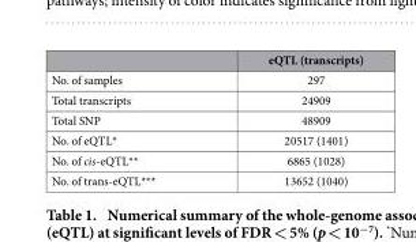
<table><thead><tr><td></td><td>eQTL (transcripts)</td></tr></thead><tbody><tr><td>No. of samples</td><td>297</td></tr><tr><td>Total transcripts</td><td>24909</td></tr><tr><td>Total SNP</td><td>48909</td></tr><tr><td>No. of eQTL*</td><td>20517 (1401)</td></tr><tr><td>No. of cis-eQTL**</td><td>6865 (1028)</td></tr><tr><td>No. of trans-eQTL***</td><td>13652 (1040)</td></tr></tbody></table>